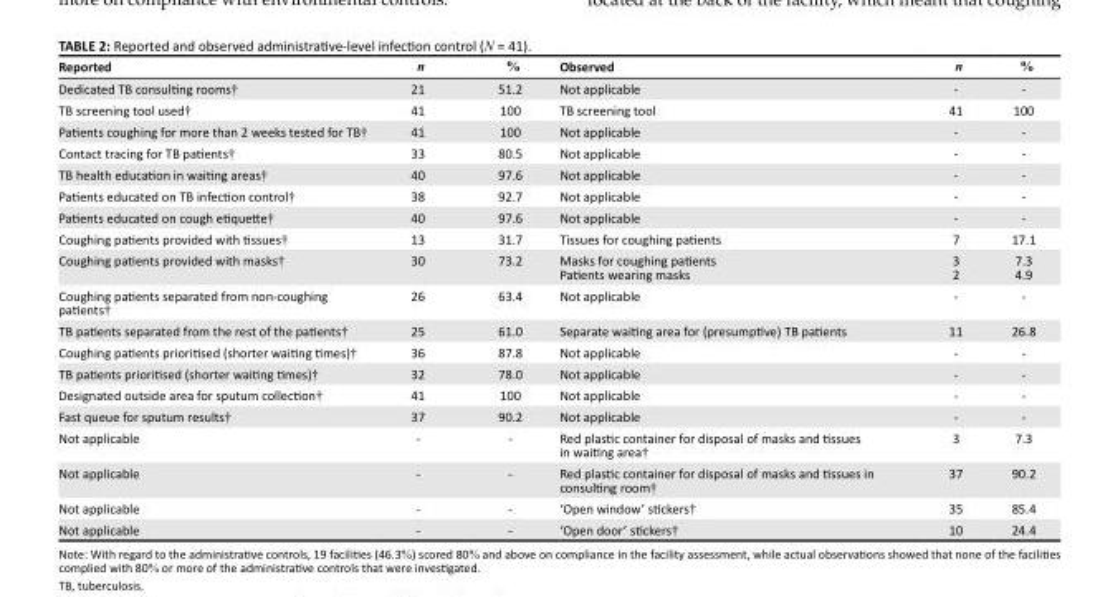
<table><thead><tr><td>Reported</td><td>n</td><td>%</td><td>Observed</td><td>n</td><td>%</td></tr></thead><tbody><tr><td>Dedicated TB consulting rooms†</td><td>21</td><td>51.2</td><td>Not applicable</td><td>-</td><td>-</td></tr><tr><td>TB screening tool used†</td><td>41</td><td>100</td><td>TB screening tool</td><td>41</td><td>100</td></tr><tr><td>Patients coughing for more than 2 weeks tested for TB†</td><td>41</td><td>100</td><td>Not applicable</td><td>-</td><td>-</td></tr><tr><td>Contact tracing for TB patients†</td><td>33</td><td>80.5</td><td>Not applicable</td><td>-</td><td>-</td></tr><tr><td>TB health education in waiting areas†</td><td>40</td><td>97.6</td><td>Not applicable</td><td>-</td><td>-</td></tr><tr><td>Patients educated on TB infection control†</td><td>38</td><td>92.7</td><td>Not applicable</td><td>-</td><td>-</td></tr><tr><td>Patients educated on cough etiquette†</td><td>40</td><td>97.6</td><td>Not applicable</td><td>-</td><td>-</td></tr><tr><td>Coughing patients provided with tissues†</td><td>13</td><td>31.7</td><td>Tissues for coughing patients</td><td>7</td><td>17.1</td></tr><tr><td>Coughing patients provided with masks†</td><td>30</td><td>73.2</td><td>Masks for coughing patients Patients wearing masks</td><td>3 2</td><td>7.3 4.9</td></tr><tr><td>Coughing patients separated from non-coughing patients†</td><td>26</td><td>63.4</td><td>Not applicable</td><td>-</td><td>-</td></tr><tr><td>TB patients separated from the rest of the patients†</td><td>25</td><td>61.0</td><td>Separate waiting area for (presumptive) TB patients</td><td>11</td><td>26.8</td></tr><tr><td>Coughing patients prioritised (shorter waiting times)†</td><td>36</td><td>87.8</td><td>Not applicable</td><td>-</td><td>-</td></tr><tr><td>TB patients prioritised (shorter waiting times)†</td><td>32</td><td>78.0</td><td>Not applicable</td><td>-</td><td>-</td></tr><tr><td>Designated outside area for sputum collection†</td><td>41</td><td>100</td><td>Not applicable</td><td>-</td><td>-</td></tr><tr><td>Fast queue for sputum results†</td><td>37</td><td>90.2</td><td>Not applicable</td><td>-</td><td>-</td></tr><tr><td>Not applicable</td><td>-</td><td>-</td><td>Red plastic container for disposal of masks and tissues in waiting area†</td><td>3</td><td>7.3</td></tr><tr><td>Not applicable</td><td>-</td><td>-</td><td>Red plastic container for disposal of masks and tissues in consulting room†</td><td>37</td><td>90.2</td></tr><tr><td>Not applicable</td><td>-</td><td>-</td><td>‘Open window’ stickers†</td><td>35</td><td>85.4</td></tr><tr><td>Not applicable</td><td>-</td><td>-</td><td>‘Open door’ stickers†</td><td>10</td><td>24.4</td></tr></tbody></table>